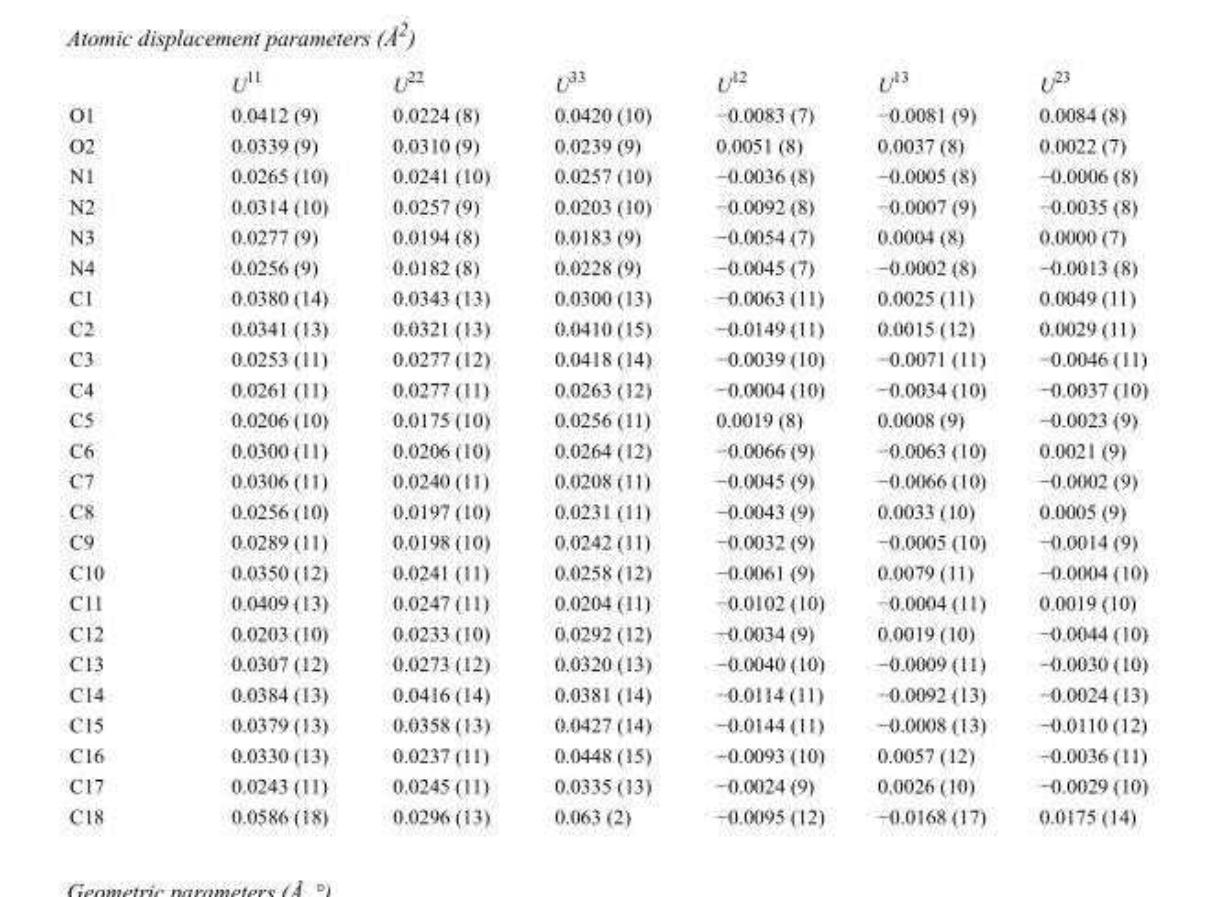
<table><thead><tr><td></td><td>U<sup>11</sup></td><td>U<sup>22</sup></td><td>U<sup>33</sup></td><td>U<sup>12</sup></td><td>U<sup>13</sup></td><td>U<sup>23</sup></td></tr></thead><tbody><tr><td>O1</td><td>0.0412 (9)</td><td>0.0224 (8)</td><td>0.0420 (10)</td><td>−0.0083 (7)</td><td>−0.0081 (9)</td><td>0.0084 (8)</td></tr><tr><td>O2</td><td>0.0339 (9)</td><td>0.0310 (9)</td><td>0.0239 (9)</td><td>0.0051 (8)</td><td>0.0037 (8)</td><td>0.0022 (7)</td></tr><tr><td>N1</td><td>0.0265 (10)</td><td>0.0241 (10)</td><td>0.0257 (10)</td><td>−0.0036 (8)</td><td>−0.0005 (8)</td><td>−0.0006 (8)</td></tr><tr><td>N2</td><td>0.0314 (10)</td><td>0.0257 (9)</td><td>0.0203 (10)</td><td>−0.0092 (8)</td><td>−0.0007 (9)</td><td>−0.0035 (8)</td></tr><tr><td>N3</td><td>0.0277 (9)</td><td>0.0194 (8)</td><td>0.0183 (9)</td><td>−0.0054 (7)</td><td>0.0004 (8)</td><td>0.0000 (7)</td></tr><tr><td>N4</td><td>0.0256 (9)</td><td>0.0182 (8)</td><td>0.0228 (9)</td><td>−0.0045 (7)</td><td>−0.0002 (8)</td><td>−0.0013 (8)</td></tr><tr><td>C1</td><td>0.0380 (14)</td><td>0.0343 (13)</td><td>0.0300 (13)</td><td>−0.0063 (11)</td><td>0.0025 (11)</td><td>0.0049 (11)</td></tr><tr><td>C2</td><td>0.0341 (13)</td><td>0.0321 (13)</td><td>0.0410 (15)</td><td>−0.0149 (11)</td><td>0.0015 (12)</td><td>0.0029 (11)</td></tr><tr><td>C3</td><td>0.0253 (11)</td><td>0.0277 (12)</td><td>0.0418 (14)</td><td>−0.0039 (10)</td><td>−0.0071 (11)</td><td>−0.0046 (11)</td></tr><tr><td>C4</td><td>0.0261 (11)</td><td>0.0277 (11)</td><td>0.0263 (12)</td><td>−0.0004 (10)</td><td>−0.0034 (10)</td><td>−0.0037 (10)</td></tr><tr><td>C5</td><td>0.0206 (10)</td><td>0.0175 (10)</td><td>0.0256 (11)</td><td>0.0019 (8)</td><td>0.0008 (9)</td><td>−0.0023 (9)</td></tr><tr><td>C6</td><td>0.0300 (11)</td><td>0.0206 (10)</td><td>0.0264 (12)</td><td>−0.0066 (9)</td><td>−0.0063 (10)</td><td>0.0021 (9)</td></tr><tr><td>C7</td><td>0.0306 (11)</td><td>0.0240 (11)</td><td>0.0208 (11)</td><td>−0.0045 (9)</td><td>−0.0066 (10)</td><td>−0.0002 (9)</td></tr><tr><td>C8</td><td>0.0256 (10)</td><td>0.0197 (10)</td><td>0.0231 (11)</td><td>−0.0043 (9)</td><td>0.0033 (10)</td><td>0.0005 (9)</td></tr><tr><td>C9</td><td>0.0289 (11)</td><td>0.0198 (10)</td><td>0.0242 (11)</td><td>−0.0032 (9)</td><td>−0.0005 (10)</td><td>−0.0014 (9)</td></tr><tr><td>C10</td><td>0.0350 (12)</td><td>0.0241 (11)</td><td>0.0258 (12)</td><td>−0.0061 (9)</td><td>0.0079 (11)</td><td>−0.0004 (10)</td></tr><tr><td>C11</td><td>0.0409 (13)</td><td>0.0247 (11)</td><td>0.0204 (11)</td><td>−0.0102 (10)</td><td>−0.0004 (11)</td><td>0.0019 (10)</td></tr><tr><td>C12</td><td>0.0203 (10)</td><td>0.0233 (10)</td><td>0.0292 (12)</td><td>−0.0034 (9)</td><td>0.0019 (10)</td><td>−0.0044 (10)</td></tr><tr><td>C13</td><td>0.0307 (12)</td><td>0.0273 (12)</td><td>0.0320 (13)</td><td>−0.0040 (10)</td><td>−0.0009 (11)</td><td>−0.0030 (10)</td></tr><tr><td>C14</td><td>0.0384 (13)</td><td>0.0416 (14)</td><td>0.0381 (14)</td><td>−0.0114 (11)</td><td>−0.0092 (13)</td><td>−0.0024 (13)</td></tr><tr><td>C15</td><td>0.0379 (13)</td><td>0.0358 (13)</td><td>0.0427 (14)</td><td>−0.0144 (11)</td><td>−0.0008 (13)</td><td>−0.0110 (12)</td></tr><tr><td>C16</td><td>0.0330 (13)</td><td>0.0237 (11)</td><td>0.0448 (15)</td><td>−0.0093 (10)</td><td>0.0057 (12)</td><td>−0.0036 (11)</td></tr><tr><td>C17</td><td>0.0243 (11)</td><td>0.0245 (11)</td><td>0.0335 (13)</td><td>−0.0024 (9)</td><td>0.0026 (10)</td><td>−0.0029 (10)</td></tr><tr><td>C18</td><td>0.0586 (18)</td><td>0.0296 (13)</td><td>0.063 (2)</td><td>−0.0095 (12)</td><td>−0.0168 (17)</td><td>0.0175 (14)</td></tr></tbody></table>